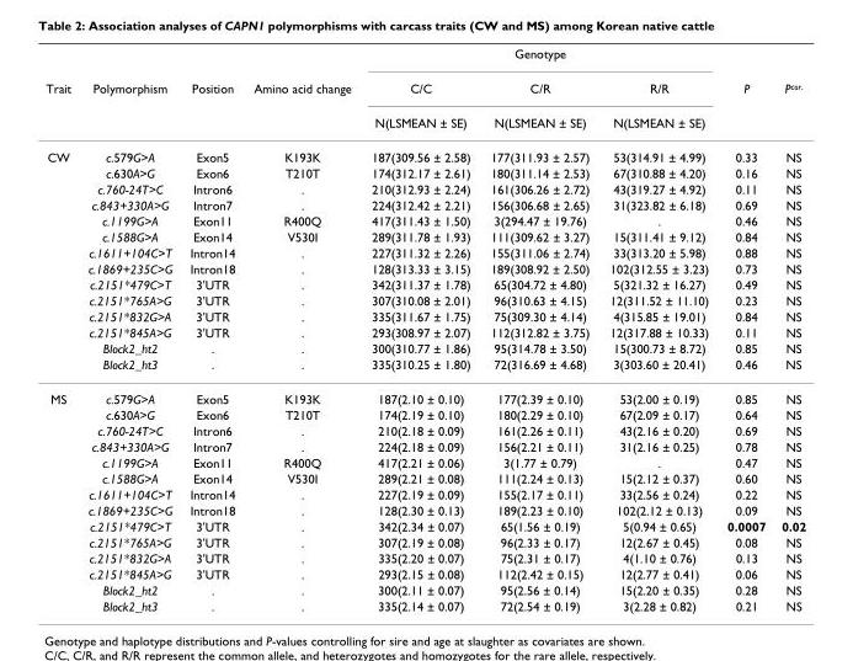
<table><thead><tr><td rowspan="3">Trait</td><td rowspan="3">Polymorphism</td><td rowspan="3">Position</td><td rowspan="3">Amino acid change</td><td colspan="3">Genotype</td><td rowspan="3">P</td><td rowspan="3">P<sup>cor.</sup></td></tr><tr><td rowspan="2">C/C N(LSMEAN ± SE)</td><td rowspan="2">C/R N(LSMEAN ± SE)</td><td rowspan="2">R/R N(LSMEAN ± SE)</td></tr><tr></tr></thead><tbody><tr><td rowspan="14">CW</td><td>c.579G&gt;A</td><td>Exon5</td><td>K193K</td><td>187(309.56 ± 2.58)</td><td>177(311.93 ± 2.57)</td><td>53(314.91 ± 4.99)</td><td>0.33</td><td>NS</td></tr><tr><td>c.630A&gt;G</td><td>Exon6</td><td>T210T</td><td>174(312.17 ± 2.61)</td><td>180(311.14 ± 2.53)</td><td>67(310.88 ± 4.20)</td><td>0.16</td><td>NS</td></tr><tr><td>c.760-24T&gt;C</td><td>Intron6</td><td>.</td><td>210(312.93 ± 2.24)</td><td>161(306.26 ± 2.72)</td><td>43(319.27 ± 4.92)</td><td>0.11</td><td>NS</td></tr><tr><td>c.843+330A&gt;G</td><td>Intron7</td><td>.</td><td>224(312.42 ± 2.21)</td><td>156(306.68 ± 2.65)</td><td>31(323.82 ± 6.18)</td><td>0.69</td><td>NS</td></tr><tr><td>c.1199G&gt;A</td><td>Exon11</td><td>R400Q</td><td>417(311.43 ± 1.50)</td><td>3(294.47 ± 19.76)</td><td>.</td><td>0.46</td><td>NS</td></tr><tr><td>c.1588G&gt;A</td><td>Exon14</td><td>V530I</td><td>289(311.78 ± 1.93)</td><td>111(309.62 ± 3.27)</td><td>15(311.41 ± 9.12)</td><td>0.84</td><td>NS</td></tr><tr><td>c.1611+104C&gt;T</td><td>Intron14</td><td>.</td><td>227(311.32 ± 2.26)</td><td>155(311.06 ± 2.74)</td><td>33(313.20 ± 5.98)</td><td>0.88</td><td>NS</td></tr><tr><td>c.1869+235C&gt;G</td><td>Intron18</td><td>.</td><td>128(313.33 ± 3.15)</td><td>189(308.92 ± 2.50)</td><td>102(312.55 ± 3.23)</td><td>0.73</td><td>NS</td></tr><tr><td>c.2151*479C&gt;T</td><td>3&#x27;UTR</td><td>.</td><td>342(311.37 ± 1.78)</td><td>65(304.72 ± 4.80)</td><td>5(321.32 ± 16.27)</td><td>0.49</td><td>NS</td></tr><tr><td>c.2151*765A&gt;G</td><td>3&#x27;UTR</td><td>.</td><td>307(310.08 ± 2.01)</td><td>96(310.63 ± 4.15)</td><td>12(311.52 ± 11.10)</td><td>0.23</td><td>NS</td></tr><tr><td>c.2151*832G&gt;A</td><td>3&#x27;UTR</td><td>.</td><td>335(311.67 ± 1.75)</td><td>75(309.30 ± 4.14)</td><td>4(315.85 ± 19.01)</td><td>0.84</td><td>NS</td></tr><tr><td>c.2151*845A&gt;G</td><td>3&#x27;UTR</td><td>.</td><td>293(308.97 ± 2.07)</td><td>112(312.82 ± 3.75)</td><td>12(317.88 ± 10.33)</td><td>0.11</td><td>NS</td></tr><tr><td>Block2_ht2</td><td>.</td><td>.</td><td>300(310.77 ± 1.86)</td><td>95(314.78 ± 3.50)</td><td>15(300.73 ± 8.72)</td><td>0.85</td><td>NS</td></tr><tr><td>Block2_ht3</td><td>.</td><td>.</td><td>335(310.25 ± 1.80)</td><td>72(316.69 ± 4.68)</td><td>3(303.60 ± 20.41)</td><td>0.46</td><td>NS</td></tr><tr><td rowspan="14">MS</td><td>c.579G&gt;A</td><td>Exon5</td><td>K193K</td><td>187(2.10 ± 0.10)</td><td>177(2.39 ± 0.10)</td><td>53(2.00 ± 0.19)</td><td>0.85</td><td>NS</td></tr><tr><td>c.630A&gt;G</td><td>Exon6</td><td>T210T</td><td>174(2.19 ± 0.10)</td><td>180(2.29 ± 0.10)</td><td>67(2.09 ± 0.17)</td><td>0.64</td><td>NS</td></tr><tr><td>c.760-24T&gt;C</td><td>Intron6</td><td>.</td><td>210(2.18 ± 0.09)</td><td>161(2.26 ± 0.11)</td><td>43(2.16 ± 0.20)</td><td>0.69</td><td>NS</td></tr><tr><td>c.843+330A&gt;G</td><td>Intron7</td><td>.</td><td>224(2.18 ± 0.09)</td><td>156(2.21 ± 0.11)</td><td>31(2.16 ± 0.25)</td><td>0.78</td><td>NS</td></tr><tr><td>c.1199G&gt;A</td><td>Exon11</td><td>R400Q</td><td>417(2.21 ± 0.06)</td><td>3(1.77 ± 0.79)</td><td>.</td><td>0.47</td><td>NS</td></tr><tr><td>c.1588G&gt;A</td><td>Exon14</td><td>V530I</td><td>289(2.21 ± 0.08)</td><td>111(2.24 ± 0.13)</td><td>15(2.12 ± 0.37)</td><td>0.60</td><td>NS</td></tr><tr><td>c.1611+104C&gt;T</td><td>Intron14</td><td>.</td><td>227(2.19 ± 0.09)</td><td>155(2.17 ± 0.11)</td><td>33(2.56 ± 0.24)</td><td>0.22</td><td>NS</td></tr><tr><td>c.1869+235C&gt;G</td><td>Intron18</td><td>.</td><td>128(2.30 ± 0.13)</td><td>189(2.23 ± 0.10)</td><td>102(2.12 ± 0.13)</td><td>0.09</td><td>NS</td></tr><tr><td>c.2151*479C&gt;T</td><td>3&#x27;UTR</td><td>.</td><td>342(2.34 ± 0.07)</td><td>65(1.56 ± 0.19)</td><td>5(0.94 ± 0.65)</td><td>0.0007</td><td>0.02</td></tr><tr><td>c.2151*765A&gt;G</td><td>3&#x27;UTR</td><td>.</td><td>307(2.19 ± 0.08)</td><td>96(2.33 ± 0.17)</td><td>12(2.67 ± 0.45)</td><td>0.08</td><td>NS</td></tr><tr><td>c.2151*832G&gt;A</td><td>3&#x27;UTR</td><td>.</td><td>335(2.20 ± 0.07)</td><td>75(2.31 ± 0.17)</td><td>4(1.10 ± 0.76)</td><td>0.13</td><td>NS</td></tr><tr><td>c.2151*845A&gt;G</td><td>3&#x27;UTR</td><td>.</td><td>293(2.15 ± 0.08)</td><td>112(2.42 ± 0.15)</td><td>12(2.77 ± 0.41)</td><td>0.06</td><td>NS</td></tr><tr><td>Block2_ht2</td><td>.</td><td>.</td><td>300(2.11 ± 0.07)</td><td>95(2.56 ± 0.14)</td><td>15(2.20 ± 0.35)</td><td>0.28</td><td>NS</td></tr><tr><td>Block2_ht3</td><td>.</td><td>.</td><td>335(2.14 ± 0.07)</td><td>72(2.54 ± 0.19)</td><td>3(2.28 ± 0.82)</td><td>0.21</td><td>NS</td></tr></tbody></table>